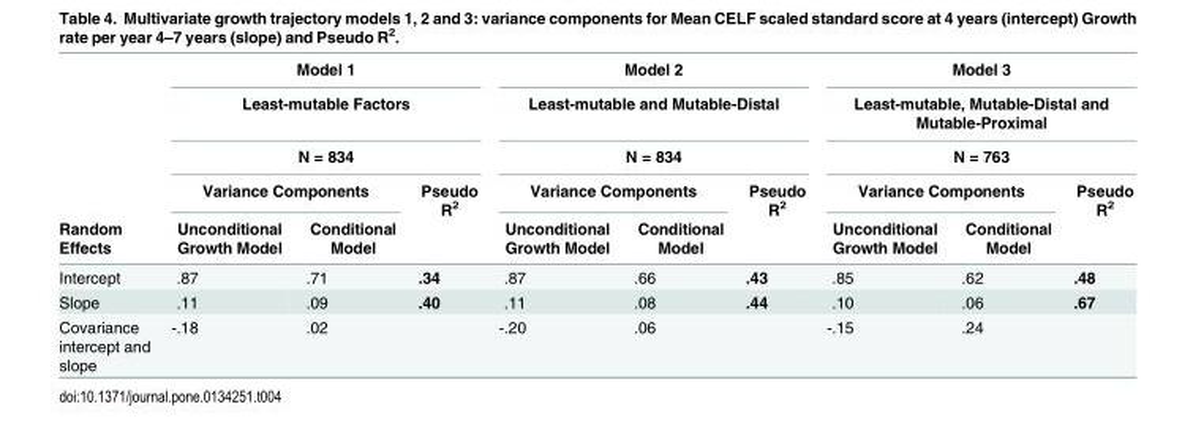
<table><thead><tr><td rowspan="5">Random Effects</td><td rowspan="3" colspan="3">Model 1 Least-mutable Factors N = 834</td><td rowspan="3" colspan="3">Model 2 Least-mutable and Mutable-Distal N = 834</td><td rowspan="3" colspan="3">Model 3 Least-mutable, Mutable-Distal and Mutable-Proximal N = 763</td></tr><tr></tr><tr></tr><tr><td colspan="2">Variance Components</td><td rowspan="2">Pseudo R<sup>2</sup></td><td colspan="2">Variance Components</td><td rowspan="2">Pseudo R<sup>2</sup></td><td colspan="2">Variance Components</td><td rowspan="2">Pseudo R<sup>2</sup></td></tr><tr><td>Unconditional Growth Model</td><td>Conditional Model</td><td>Unconditional Growth Model</td><td>Conditional Model</td><td>Unconditional Growth Model</td><td>Conditional Model</td></tr></thead><tbody><tr><td>Intercept</td><td>.87</td><td>.71</td><td>.34</td><td>.87</td><td>.66</td><td>.43</td><td>.85</td><td>.62</td><td>.48</td></tr><tr><td>Slope</td><td>.11</td><td>.09</td><td>.40</td><td>.11</td><td>.08</td><td>.44</td><td>.10</td><td>.06</td><td>.67</td></tr><tr><td>Covariance intercept and slope</td><td>-.18</td><td>.02</td><td></td><td>-.20</td><td>.06</td><td></td><td>-.15</td><td>.24</td><td></td></tr></tbody></table>